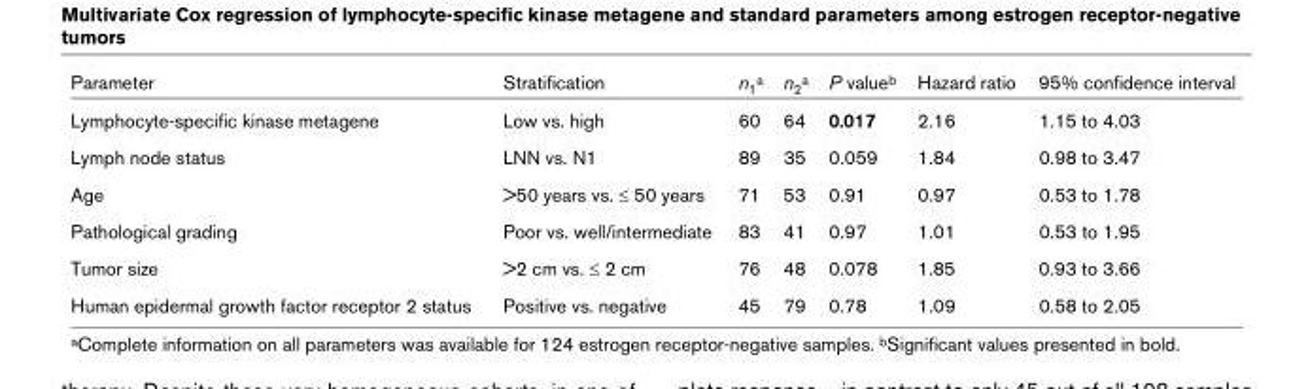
<table><thead><tr><td>Parameter</td><td>Stratification</td><td>n<sub>1</sub><sup>a</sup></td><td>n<sub>2</sub><sup>a</sup></td><td>P value<sup>b</sup></td><td>Hazard ratio</td><td>95% confidence interval</td></tr></thead><tbody><tr><td>Lymphocyte-specific kinase metagene</td><td>Low vs. high</td><td>60</td><td>64</td><td>0.017</td><td>2.16</td><td>1.15 to 4.03</td></tr><tr><td>Lymph node status</td><td>LNN vs. N1</td><td>89</td><td>35</td><td>0.059</td><td>1.84</td><td>0.98 to 3.47</td></tr><tr><td>Age</td><td>&gt;50 years vs. ≤ 50 years</td><td>71</td><td>53</td><td>0.91</td><td>0.97</td><td>0.53 to 1.78</td></tr><tr><td>Pathological grading</td><td>Poor vs. well/intermediate</td><td>83</td><td>41</td><td>0.97</td><td>1.01</td><td>0.53 to 1.95</td></tr><tr><td>Tumor size</td><td>&gt;2 cm vs. ≤ 2 cm</td><td>76</td><td>48</td><td>0.078</td><td>1.85</td><td>0.93 to 3.66</td></tr><tr><td>Human epidermal growth factor receptor 2 status</td><td>Positive vs. negative</td><td>45</td><td>79</td><td>0.78</td><td>1.09</td><td>0.58 to 2.05</td></tr></tbody></table>